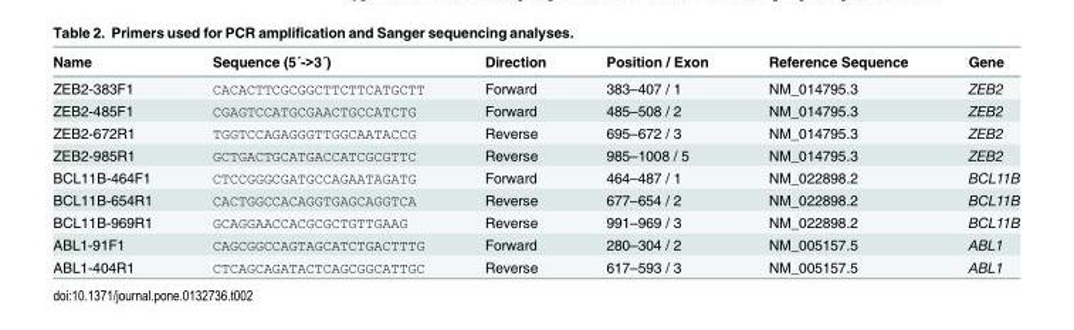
<table><thead><tr><td>Name</td><td>Sequence (5´-&gt;3´)</td><td>Direction</td><td>Position / Exon</td><td>Reference Sequence</td><td>Gene</td></tr></thead><tbody><tr><td>ZEB2-383F1</td><td>CACACTTCGCGGCTTCTTCATGCTT</td><td>Forward</td><td>383–407 / 1</td><td>NM_014795.3</td><td>ZEB2</td></tr><tr><td>ZEB2-485F1</td><td>CGAGTCCATGCGAACTGCCATCTG</td><td>Forward</td><td>485–508 / 2</td><td>NM_014795.3</td><td>ZEB2</td></tr><tr><td>ZEB2-672R1</td><td>TGGTCCAGAGGGTTGGCAATACCG</td><td>Reverse</td><td>695–672 / 3</td><td>NM_014795.3</td><td>ZEB2</td></tr><tr><td>ZEB2-985R1</td><td>GCTGACTGCATGACCATCGCGTTC</td><td>Reverse</td><td>985–1008 / 5</td><td>NM_014795.3</td><td>ZEB2</td></tr><tr><td>BCL11B-464F1</td><td>CTCCGGGCGATGCCAGAATAGATG</td><td>Forward</td><td>464–487 / 1</td><td>NM_022898.2</td><td>BCL11B</td></tr><tr><td>BCL11B-654R1</td><td>CACTGGCCACAGGTGAGCAGGTCA</td><td>Reverse</td><td>677–654 / 2</td><td>NM_022898.2</td><td>BCL11B</td></tr><tr><td>BCL11B-969R1</td><td>GCAGGAACCACGCGCTGTTGAAG</td><td>Reverse</td><td>991–969 / 3</td><td>NM_022898.2</td><td>BCL11B</td></tr><tr><td>ABL1-91F1</td><td>CAGCGGCCAGTAGCATCTGACTTTG</td><td>Forward</td><td>280–304 / 2</td><td>NM_005157.5</td><td>ABL1</td></tr><tr><td>ABL1-404R1</td><td>CTCAGCAGATACTCAGCGGCATTGC</td><td>Reverse</td><td>617–593 / 3</td><td>NM_005157.5</td><td>ABL1</td></tr></tbody></table>